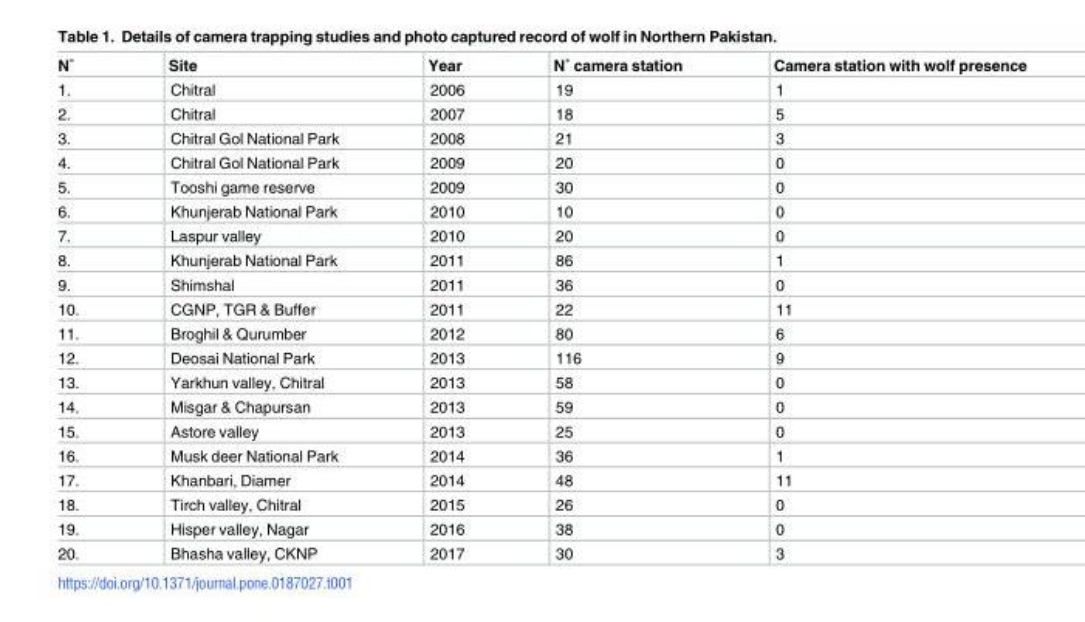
<table><thead><tr><td>N˚</td><td>Site</td><td>Year</td><td>N˚ camera station</td><td>Camera station with wolf presence</td></tr></thead><tbody><tr><td>1.</td><td>Chitral</td><td>2006</td><td>19</td><td>1</td></tr><tr><td>2.</td><td>Chitral</td><td>2007</td><td>18</td><td>5</td></tr><tr><td>3.</td><td>Chitral Gol National Park</td><td>2008</td><td>21</td><td>3</td></tr><tr><td>4.</td><td>Chitral Gol National Park</td><td>2009</td><td>20</td><td>0</td></tr><tr><td>5.</td><td>Tooshi game reserve</td><td>2009</td><td>30</td><td>0</td></tr><tr><td>6.</td><td>Khunjerab National Park</td><td>2010</td><td>10</td><td>0</td></tr><tr><td>7.</td><td>Laspur valley</td><td>2010</td><td>20</td><td>0</td></tr><tr><td>8.</td><td>Khunjerab National Park</td><td>2011</td><td>86</td><td>1</td></tr><tr><td>9.</td><td>Shimshal</td><td>2011</td><td>36</td><td>0</td></tr><tr><td>10.</td><td>CGNP, TGR &amp; Buffer</td><td>2011</td><td>22</td><td>11</td></tr><tr><td>11.</td><td>Broghil &amp; Qurumber</td><td>2012</td><td>80</td><td>6</td></tr><tr><td>12.</td><td>Deosai National Park</td><td>2013</td><td>116</td><td>9</td></tr><tr><td>13.</td><td>Yarkhun valley, Chitral</td><td>2013</td><td>58</td><td>0</td></tr><tr><td>14.</td><td>Misgar &amp; Chapursan</td><td>2013</td><td>59</td><td>0</td></tr><tr><td>15.</td><td>Astore valley</td><td>2013</td><td>25</td><td>0</td></tr><tr><td>16.</td><td>Musk deer National Park</td><td>2014</td><td>36</td><td>1</td></tr><tr><td>17.</td><td>Khanbari, Diamer</td><td>2014</td><td>48</td><td>11</td></tr><tr><td>18.</td><td>Tirch valley, Chitral</td><td>2015</td><td>26</td><td>0</td></tr><tr><td>19.</td><td>Hisper valley, Nagar</td><td>2016</td><td>38</td><td>0</td></tr><tr><td>20.</td><td>Bhasha valley, CKNP</td><td>2017</td><td>30</td><td>3</td></tr></tbody></table>